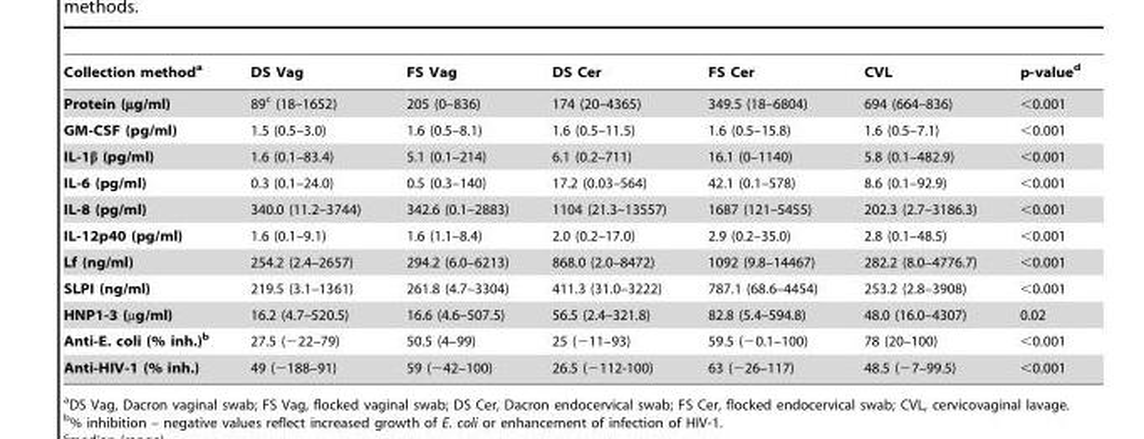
<table><thead><tr><td>Collection method<sup>a</sup></td><td>DS Vag</td><td>FS Vag</td><td>DS Cer</td><td>FS Cer</td><td>CVL</td><td>p-value<sup>d</sup></td></tr></thead><tbody><tr><td>Protein (µg/ml)</td><td>89<sup>c</sup> (18–1652)</td><td>205 (0–836)</td><td>174 (20–4365)</td><td>349.5 (18–6804)</td><td>694 (664–836)</td><td>&lt;0.001</td></tr><tr><td>GM-CSF (pg/ml)</td><td>1.5 (0.5–3.0)</td><td>1.6 (0.5–8.1)</td><td>1.6 (0.5–11.5)</td><td>1.6 (0.5–15.8)</td><td>1.6 (0.5–7.1)</td><td>&lt;0.001</td></tr><tr><td>IL-1β (pg/ml)</td><td>1.6 (0.1–83.4)</td><td>5.1 (0.1–214)</td><td>6.1 (0.2–711)</td><td>16.1 (0–1140)</td><td>5.8 (0.1–482.9)</td><td>&lt;0.001</td></tr><tr><td>IL-6 (pg/ml)</td><td>0.3 (0.1–24.0)</td><td>0.5 (0.3–140)</td><td>17.2 (0.03–564)</td><td>42.1 (0.1–578)</td><td>8.6 (0.1–92.9)</td><td>&lt;0.001</td></tr><tr><td>IL-8 (pg/ml)</td><td>340.0 (11.2–3744)</td><td>342.6 (0.1–2883)</td><td>1104 (21.3–13557)</td><td>1687 (121–5455)</td><td>202.3 (2.7–3186.3)</td><td>&lt;0.001</td></tr><tr><td>IL-12p40 (pg/ml)</td><td>1.6 (0.1–9.1)</td><td>1.6 (1.1–8.4)</td><td>2.0 (0.2–17.0)</td><td>2.9 (0.2–35.0)</td><td>2.8 (0.1–48.5)</td><td>&lt;0.001</td></tr><tr><td>Lf (ng/ml)</td><td>254.2 (2.4–2657)</td><td>294.2 (6.0–6213)</td><td>868.0 (2.0–8472)</td><td>1092 (9.8–14467)</td><td>282.2 (8.0–4776.7)</td><td>&lt;0.001</td></tr><tr><td>SLPI (ng/ml)</td><td>219.5 (3.1–1361)</td><td>261.8 (4.7–3304)</td><td>411.3 (31.0–3222)</td><td>787.1 (68.6–4454)</td><td>253.2 (2.8–3908)</td><td>&lt;0.001</td></tr><tr><td>HNP1-3 (µg/ml)</td><td>16.2 (4.7–520.5)</td><td>16.6 (4.6–507.5)</td><td>56.5 (2.4–321.8)</td><td>82.8 (5.4–594.8)</td><td>48.0 (16.0–4307)</td><td>0.02</td></tr><tr><td>Anti-E. coli (% inh.)b</td><td>27.5 (−22–79)</td><td>50.5 (4–99)</td><td>25 (−11–93)</td><td>59.5 (−0.1–100)</td><td>78 (20–100)</td><td>&lt;0.001</td></tr><tr><td>Anti-HIV-1 (% inh.)</td><td>49 (−188–91)</td><td>59 (−42–100)</td><td>26.5 (−112-100)</td><td>63 (−26–117)</td><td>48.5 (−7–99.5)</td><td>&lt;0.001</td></tr></tbody></table>